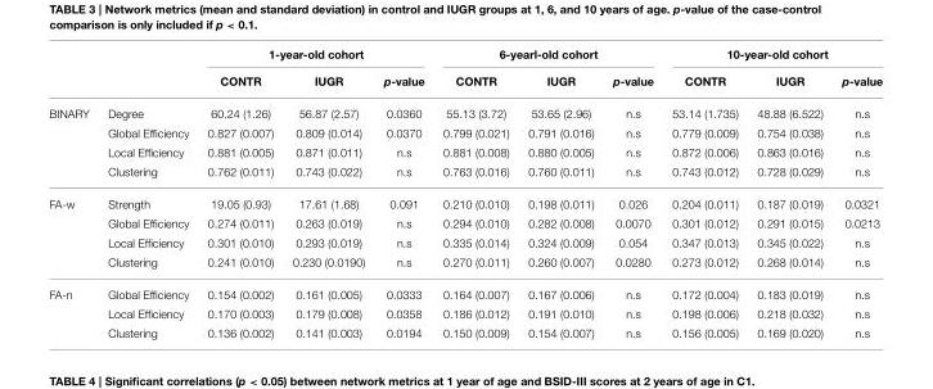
<table><thead><tr><td rowspan="2"></td><td rowspan="2"></td><td colspan="3">1-year-old cohort</td><td colspan="3">6-yearl-old cohort</td><td colspan="3">10-year-old cohort</td></tr><tr><td>CONTR</td><td>IUGR</td><td>p-value</td><td>CONTR</td><td>IUGR</td><td>p-value</td><td>CONTR</td><td>IUGR</td><td>p-value</td></tr></thead><tbody><tr><td rowspan="4">BINARY</td><td>Degree</td><td>60.24 (1.26)</td><td>56.87 (2.57)</td><td>0.0360</td><td>55.13 (3.72)</td><td>53.65 (2.96)</td><td>n.s</td><td>53.14 (1.735)</td><td>48.88 (6.522)</td><td>n.s</td></tr><tr><td>Global Efficiency</td><td>0.827 (0.007)</td><td>0.809 (0.014)</td><td>0.0370</td><td>0.799 (0.021)</td><td>0.791 (0.016)</td><td>n.s</td><td>0.779 (0.009)</td><td>0.754 (0.038)</td><td>n.s</td></tr><tr><td>Local Efficiency</td><td>0.881 (0.005)</td><td>0.871 (0.011)</td><td>n.s</td><td>0.881 (0.008)</td><td>0.880 (0.005)</td><td>n.s</td><td>0.872 (0.006)</td><td>0.863 (0.016)</td><td>n.s</td></tr><tr><td>Clustering</td><td>0.762 (0.011)</td><td>0.743 (0.022)</td><td>n.s</td><td>0.763 (0.016)</td><td>0.760 (0.011)</td><td>n.s</td><td>0.743 (0.012)</td><td>0.728 (0.029)</td><td>n.s</td></tr><tr><td rowspan="4">FA-w</td><td>Strength</td><td>19.05 (0.93)</td><td>17.61 (1.68)</td><td>0.091</td><td>0.210 (0.010)</td><td>0.198 (0.011)</td><td>0.026</td><td>0.204 (0.011)</td><td>0.187 (0.019)</td><td>0.0321</td></tr><tr><td>Global Efficiency</td><td>0.274 (0.011)</td><td>0.263 (0.019)</td><td>n.s</td><td>0.294 (0.010)</td><td>0.282 (0.008)</td><td>0.0070</td><td>0.301 (0.012)</td><td>0.291 (0.015)</td><td>0.0213</td></tr><tr><td>Local Efficiency</td><td>0.301 (0.010)</td><td>0.293 (0.019)</td><td>n.s</td><td>0.335 (0.014)</td><td>0.324 (0.009)</td><td>0.054</td><td>0.347 (0.013)</td><td>0.345 (0.022)</td><td>n.s</td></tr><tr><td>Clustering</td><td>0.241 (0.010)</td><td>0.230 (0.0190)</td><td>n.s</td><td>0.270 (0.011)</td><td>0.260 (0.007)</td><td>0.0280</td><td>0.273 (0.012)</td><td>0.268 (0.014)</td><td>n.s</td></tr><tr><td rowspan="3">FA-n</td><td>Global Efficiency</td><td>0.154 (0.002)</td><td>0.161 (0.005)</td><td>0.0333</td><td>0.164 (0.007)</td><td>0.167 (0.006)</td><td>n.s</td><td>0.172 (0.004)</td><td>0.183 (0.019)</td><td>n.s</td></tr><tr><td>Local Efficiency</td><td>0.170 (0.003)</td><td>0.179 (0.008)</td><td>0.0358</td><td>0.186 (0.012)</td><td>0.191 (0.010)</td><td>n.s</td><td>0.198 (0.006)</td><td>0.218 (0.032)</td><td>n.s</td></tr><tr><td>Clustering</td><td>0.136 (0.002)</td><td>0.141 (0.003)</td><td>0.0194</td><td>0.150 (0.009)</td><td>0.154 (0.007)</td><td>n.s</td><td>0.156 (0.005)</td><td>0.169 (0.020)</td><td>n.s</td></tr></tbody></table>